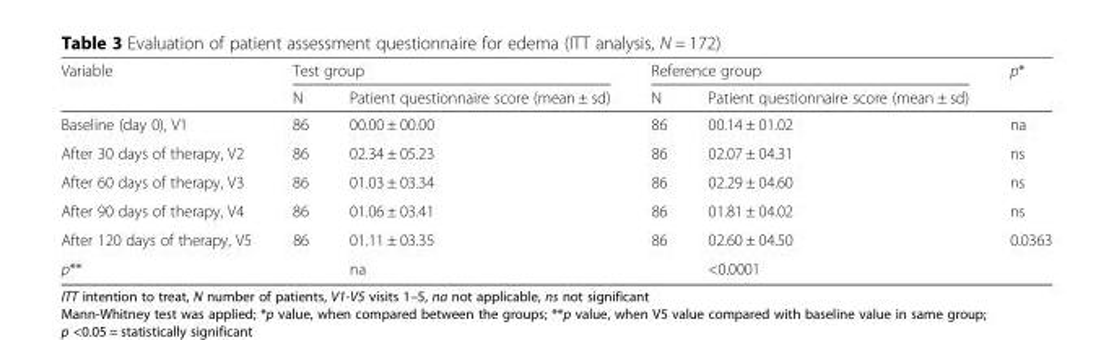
<table><thead><tr><td rowspan="2">Variable</td><td colspan="2">Test group</td><td colspan="2">Reference group</td><td rowspan="2">p*</td></tr><tr><td>N</td><td>Patient questionnaire score (mean ± sd)</td><td>N</td><td>Patient questionnaire score (mean ± sd)</td></tr></thead><tbody><tr><td>Baseline (day 0), V1</td><td>86</td><td>00.00 ± 00.00</td><td>86</td><td>00.14 ± 01.02</td><td>na</td></tr><tr><td>After 30 days of therapy, V2</td><td>86</td><td>02.34 ± 05.23</td><td>86</td><td>02.07 ± 04.31</td><td>ns</td></tr><tr><td>After 60 days of therapy, V3</td><td>86</td><td>01.03 ± 03.34</td><td>86</td><td>02.29 ± 04.60</td><td>ns</td></tr><tr><td>After 90 days of therapy, V4</td><td>86</td><td>01.06 ± 03.41</td><td>86</td><td>01.81 ± 04.02</td><td>ns</td></tr><tr><td>After 120 days of therapy, V5</td><td>86</td><td>01.11 ± 03.35</td><td>86</td><td>02.60 ± 04.50</td><td>0.0363</td></tr><tr><td>p**</td><td></td><td>na</td><td></td><td>&lt;0.0001</td><td></td></tr></tbody></table>